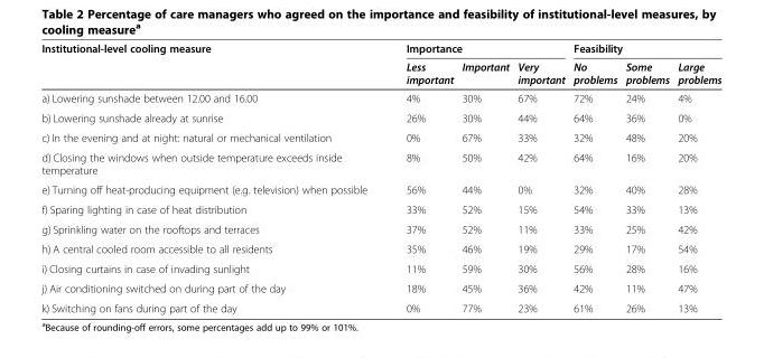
<table><thead><tr><td rowspan="2">Institutional-level cooling measure</td><td colspan="3">Importance</td><td colspan="3">Feasibility</td></tr><tr><td>Less important</td><td>Important</td><td>Very important</td><td>No problems</td><td>Some problems</td><td>Large problems</td></tr></thead><tbody><tr><td>a) Lowering sunshade between 12.00 and 16.00</td><td>4%</td><td>30%</td><td>67%</td><td>72%</td><td>24%</td><td>4%</td></tr><tr><td>b) Lowering sunshade already at sunrise</td><td>26%</td><td>30%</td><td>44%</td><td>64%</td><td>36%</td><td>0%</td></tr><tr><td>c) In the evening and at night: natural or mechanical ventilation</td><td>0%</td><td>67%</td><td>33%</td><td>32%</td><td>48%</td><td>20%</td></tr><tr><td>d) Closing the windows when outside temperature exceeds inside temperature</td><td>8%</td><td>50%</td><td>42%</td><td>64%</td><td>16%</td><td>20%</td></tr><tr><td>e) Turning off heat-producing equipment (e.g. television) when possible</td><td>56%</td><td>44%</td><td>0%</td><td>32%</td><td>40%</td><td>28%</td></tr><tr><td>f) Sparing lighting in case of heat distribution</td><td>33%</td><td>52%</td><td>15%</td><td>54%</td><td>33%</td><td>13%</td></tr><tr><td>g) Sprinkling water on the rooftops and terraces</td><td>37%</td><td>52%</td><td>11%</td><td>33%</td><td>25%</td><td>42%</td></tr><tr><td>h) A central cooled room accessible to all residents</td><td>35%</td><td>46%</td><td>19%</td><td>29%</td><td>17%</td><td>54%</td></tr><tr><td>i) Closing curtains in case of invading sunlight</td><td>11%</td><td>59%</td><td>30%</td><td>56%</td><td>28%</td><td>16%</td></tr><tr><td>j) Air conditioning switched on during part of the day</td><td>18%</td><td>45%</td><td>36%</td><td>42%</td><td>11%</td><td>47%</td></tr><tr><td>k) Switching on fans during part of the day</td><td>0%</td><td>77%</td><td>23%</td><td>61%</td><td>26%</td><td>13%</td></tr></tbody></table>